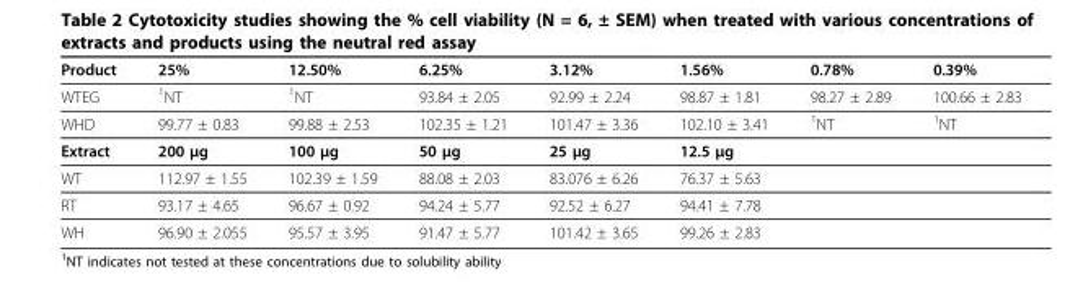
<table><thead><tr><td>Product</td><td>25%</td><td>12.50%</td><td>6.25%</td><td>3.12%</td><td>1.56%</td><td>0.78%</td><td>0.39%</td></tr></thead><tbody><tr><td>WTEG</td><td><sup>1</sup>NT</td><td><sup>1</sup>NT</td><td>93.84 ± 2.05</td><td>92.99 ± 2.24</td><td>98.87 ± 1.81</td><td>98.27 ± 2.89</td><td>100.66 ± 2.83</td></tr><tr><td>WHD</td><td>99.77 ± 0.83</td><td>99.88 ± 2.53</td><td>102.35 ± 1.21</td><td>101.47 ± 3.36</td><td>102.10 ± 3.41</td><td><sup>1</sup>NT</td><td><sup>1</sup>NT</td></tr><tr><td>Extract</td><td>200 μg</td><td>100 μg</td><td>50 μg</td><td>25 μg</td><td>12.5 μg</td><td></td><td></td></tr><tr><td>WT</td><td>112.97 ± 1.55</td><td>102.39 ± 1.59</td><td>88.08 ± 2.03</td><td>83.076 ± 6.26</td><td>76.37 ± 5.63</td><td></td><td></td></tr><tr><td>RT</td><td>93.17 ± 4.65</td><td>96.67 ± 0.92</td><td>94.24 ± 5.77</td><td>92.52 ± 6.27</td><td>94.41 ± 7.78</td><td></td><td></td></tr><tr><td>WH</td><td>96.90 ± 2.055</td><td>95.57 ± 3.95</td><td>91.47 ± 5.77</td><td>101.42 ± 3.65</td><td>99.26 ± 2.83</td><td></td><td></td></tr></tbody></table>